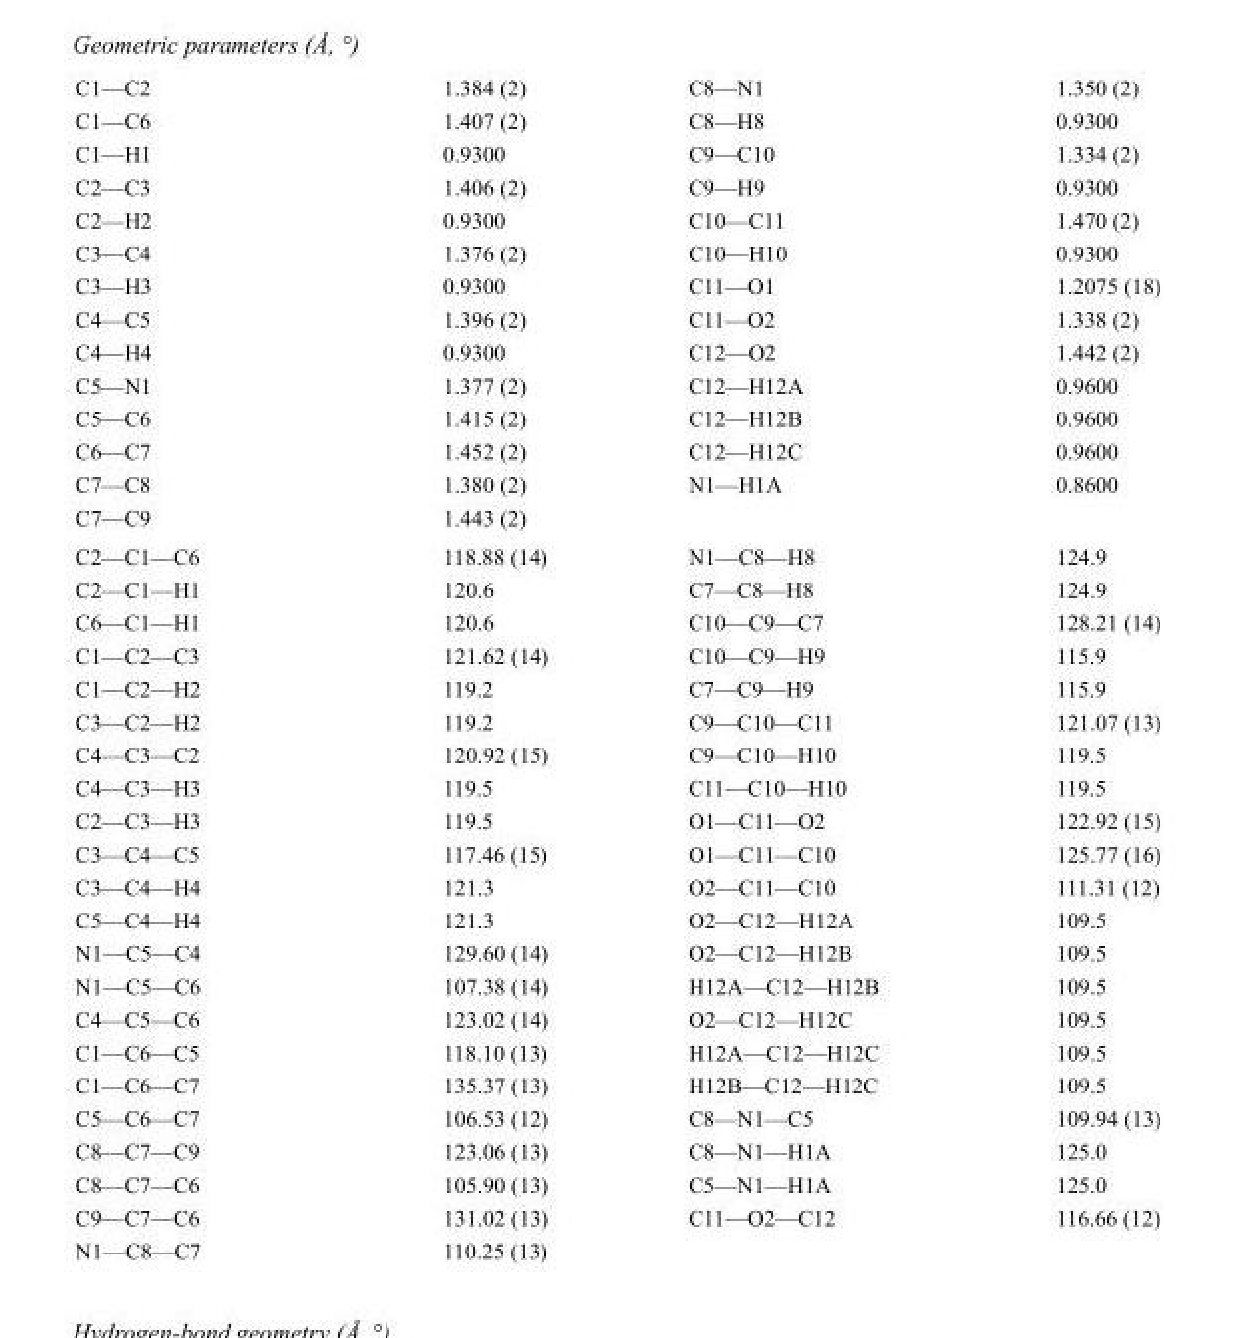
<table><tbody><tr><td>C1—C2</td><td>1.384 (2)</td><td>C8—N1</td><td>1.350 (2)</td></tr><tr><td>C1—C6</td><td>1.407 (2)</td><td>C8—H8</td><td>0.9300</td></tr><tr><td>C1—H1</td><td>0.9300</td><td>C9—C10</td><td>1.334 (2)</td></tr><tr><td>C2—C3</td><td>1.406 (2)</td><td>C9—H9</td><td>0.9300</td></tr><tr><td>C2—H2</td><td>0.9300</td><td>C10—C11</td><td>1.470 (2)</td></tr><tr><td>C3—C4</td><td>1.376 (2)</td><td>C10—H10</td><td>0.9300</td></tr><tr><td>C3—H3</td><td>0.9300</td><td>C11—O1</td><td>1.2075 (18)</td></tr><tr><td>C4—C5</td><td>1.396 (2)</td><td>C11—O2</td><td>1.338 (2)</td></tr><tr><td>C4—H4</td><td>0.9300</td><td>C12—O2</td><td>1.442 (2)</td></tr><tr><td>C5—N1</td><td>1.377 (2)</td><td>C12—H12A</td><td>0.9600</td></tr><tr><td>C5—C6</td><td>1.415 (2)</td><td>C12—H12B</td><td>0.9600</td></tr><tr><td>C6—C7</td><td>1.452 (2)</td><td>C12—H12C</td><td>0.9600</td></tr><tr><td>C7—C8</td><td>1.380 (2)</td><td>N1—H1A</td><td>0.8600</td></tr><tr><td>C7—C9</td><td>1.443 (2)</td><td></td><td></td></tr><tr><td>C2—C1—C6</td><td>118.88 (14)</td><td>N1—C8—H8</td><td>124.9</td></tr><tr><td>C2—C1—H1</td><td>120.6</td><td>C7—C8—H8</td><td>124.9</td></tr><tr><td>C6—C1—H1</td><td>120.6</td><td>C10—C9—C7</td><td>128.21 (14)</td></tr><tr><td>C1—C2—C3</td><td>121.62 (14)</td><td>C10—C9—H9</td><td>115.9</td></tr><tr><td>C1—C2—H2</td><td>119.2</td><td>C7—C9—H9</td><td>115.9</td></tr><tr><td>C3—C2—H2</td><td>119.2</td><td>C9—C10—C11</td><td>121.07 (13)</td></tr><tr><td>C4—C3—C2</td><td>120.92 (15)</td><td>C9—C10—H10</td><td>119.5</td></tr><tr><td>C4—C3—H3</td><td>119.5</td><td>C11—C10—H10</td><td>119.5</td></tr><tr><td>C2—C3—H3</td><td>119.5</td><td>O1—C11—O2</td><td>122.92 (15)</td></tr><tr><td>C3—C4—C5</td><td>117.46 (15)</td><td>O1—C11—C10</td><td>125.77 (16)</td></tr><tr><td>C3—C4—H4</td><td>121.3</td><td>O2—C11—C10</td><td>111.31 (12)</td></tr><tr><td>C5—C4—H4</td><td>121.3</td><td>O2—C12—H12A</td><td>109.5</td></tr><tr><td>N1—C5—C4</td><td>129.60 (14)</td><td>O2—C12—H12B</td><td>109.5</td></tr><tr><td>N1—C5—C6</td><td>107.38 (14)</td><td>H12A—C12—H12B</td><td>109.5</td></tr><tr><td>C4—C5—C6</td><td>123.02 (14)</td><td>O2—C12—H12C</td><td>109.5</td></tr><tr><td>C1—C6—C5</td><td>118.10 (13)</td><td>H12A—C12—H12C</td><td>109.5</td></tr><tr><td>C1—C6—C7</td><td>135.37 (13)</td><td>H12B—C12—H12C</td><td>109.5</td></tr><tr><td>C5—C6—C7</td><td>106.53 (12)</td><td>C8—N1—C5</td><td>109.94 (13)</td></tr><tr><td>C8—C7—C9</td><td>123.06 (13)</td><td>C8—N1—H1A</td><td>125.0</td></tr><tr><td>C8—C7—C6</td><td>105.90 (13)</td><td>C5—N1—H1A</td><td>125.0</td></tr><tr><td>C9—C7—C6</td><td>131.02 (13)</td><td>C11—O2—C12</td><td>116.66 (12)</td></tr><tr><td>N1—C8—C7</td><td>110.25 (13)</td><td></td><td></td></tr></tbody></table>